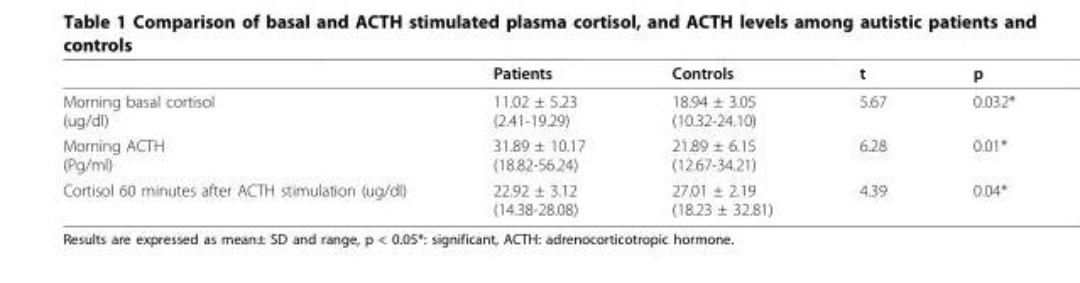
<table><thead><tr><td></td><td>Patients</td><td>Controls</td><td>t</td><td>p</td></tr></thead><tbody><tr><td>Morning basal cortisol (ug/dl)</td><td>11.02 ± 5.23 (2.41-19.29)</td><td>18.94 ± 3.05 (10.32-24.10)</td><td>5.67</td><td>0.032*</td></tr><tr><td>Morning ACTH (Pg/ml)</td><td>31.89 ± 10.17 (18.82-56.24)</td><td>21.89 ± 6.15 (12.67-34.21)</td><td>6.28</td><td>0.01*</td></tr><tr><td>Cortisol 60 minutes after ACTH stimulation (ug/dl)</td><td>22.92 ± 3.12 (14.38-28.08)</td><td>27.01 ± 2.19 (18.23 ± 32.81)</td><td>4.39</td><td>0.04*</td></tr></tbody></table>